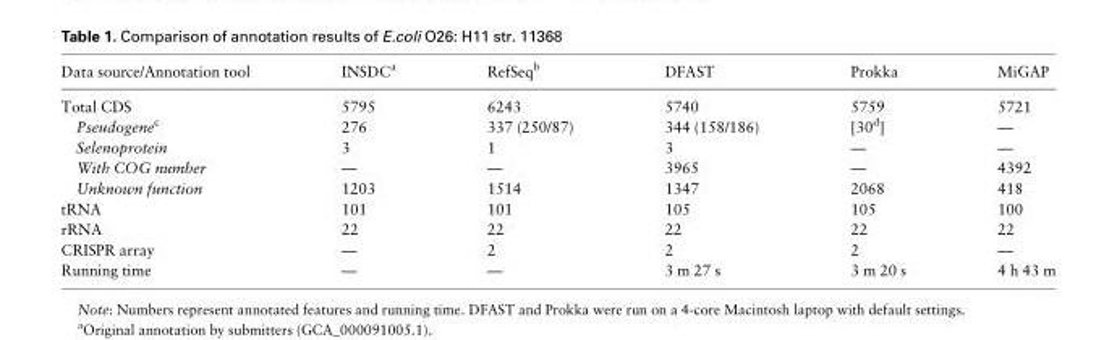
<table><thead><tr><td>Data source/Annotation tool</td><td>INSDC<sup>a</sup></td><td>RefSeq<sup>b</sup></td><td>DFAST</td><td>Prokka</td><td>MiGAP</td></tr></thead><tbody><tr><td>Total CDS</td><td>5795</td><td>6243</td><td>5740</td><td>5759</td><td>5721</td></tr><tr><td>Pseudogene<sup>c</sup></td><td>276</td><td>337 (250/87)</td><td>344 (158/186)</td><td>[30<sup>d</sup>]</td><td>—</td></tr><tr><td>Selenoprotein</td><td>3</td><td>1</td><td>3</td><td>—</td><td>—</td></tr><tr><td>With COG number</td><td>—</td><td>—</td><td>3965</td><td>—</td><td>4392</td></tr><tr><td>Unknown function</td><td>1203</td><td>1514</td><td>1347</td><td>2068</td><td>418</td></tr><tr><td>tRNA</td><td>101</td><td>101</td><td>105</td><td>105</td><td>100</td></tr><tr><td>rRNA</td><td>22</td><td>22</td><td>22</td><td>22</td><td>22</td></tr><tr><td>CRISPR array</td><td>—</td><td>2</td><td>2</td><td>2</td><td>—</td></tr><tr><td>Running time</td><td>—</td><td>—</td><td>3 m 27 s</td><td>3 m 20 s</td><td>4 h 43 m</td></tr></tbody></table>